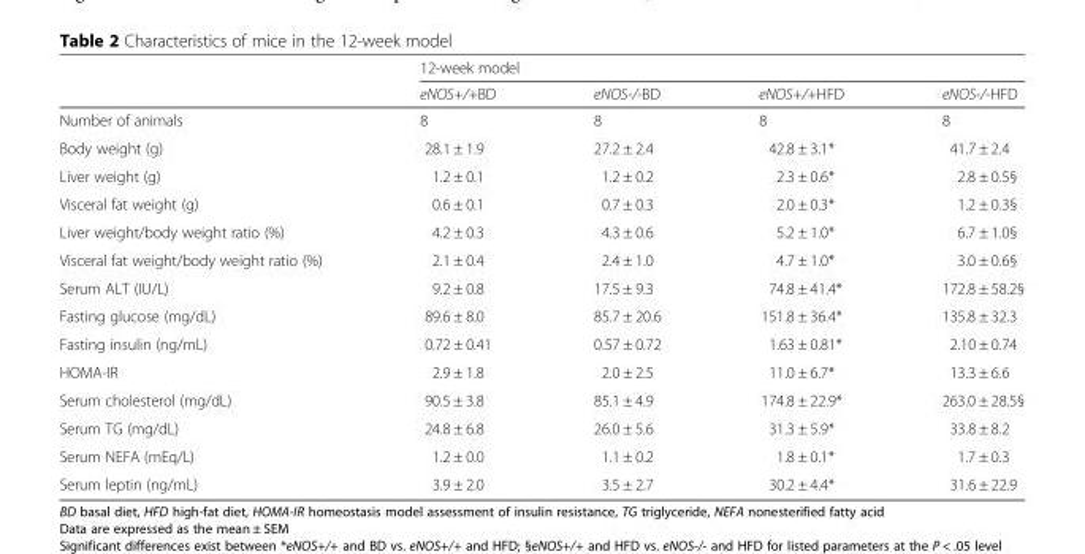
<table><thead><tr><td rowspan="2"></td><td colspan="4">12-week model</td></tr><tr><td>eNOS+/+BD</td><td>eNOS-/-BD</td><td>eNOS+/+HFD</td><td>eNOS-/-HFD</td></tr></thead><tbody><tr><td>Number of animals</td><td>8</td><td>8</td><td>8</td><td>8</td></tr><tr><td>Body weight (g)</td><td>28.1 ± 1.9</td><td>27.2 ± 2.4</td><td>42.8 ± 3.1*</td><td>41.7 ± 2.4</td></tr><tr><td>Liver weight (g)</td><td>1.2 ± 0.1</td><td>1.2 ± 0.2</td><td>2.3 ± 0.6*</td><td>2.8 ± 0.5§</td></tr><tr><td>Visceral fat weight (g)</td><td>0.6 ± 0.1</td><td>0.7 ± 0.3</td><td>2.0 ± 0.3*</td><td>1.2 ± 0.3§</td></tr><tr><td>Liver weight/body weight ratio (%)</td><td>4.2 ± 0.3</td><td>4.3 ± 0.6</td><td>5.2 ± 1.0*</td><td>6.7 ± 1.0§</td></tr><tr><td>Visceral fat weight/body weight ratio (%)</td><td>2.1 ± 0.4</td><td>2.4 ± 1.0</td><td>4.7 ± 1.0*</td><td>3.0 ± 0.6§</td></tr><tr><td>Serum ALT (IU/L)</td><td>9.2 ± 0.8</td><td>17.5 ± 9.3</td><td>74.8 ± 41.4*</td><td>172.8 ± 58.2§</td></tr><tr><td>Fasting glucose (mg/dL)</td><td>89.6 ± 8.0</td><td>85.7 ± 20.6</td><td>151.8 ± 36.4*</td><td>135.8 ± 32.3</td></tr><tr><td>Fasting insulin (ng/mL)</td><td>0.72 ± 0.41</td><td>0.57 ± 0.72</td><td>1.63 ± 0.81*</td><td>2.10 ± 0.74</td></tr><tr><td>HOMA-IR</td><td>2.9 ± 1.8</td><td>2.0 ± 2.5</td><td>11.0 ± 6.7*</td><td>13.3 ± 6.6</td></tr><tr><td>Serum cholesterol (mg/dL)</td><td>90.5 ± 3.8</td><td>85.1 ± 4.9</td><td>174.8 ± 22.9*</td><td>263.0 ± 28.5§</td></tr><tr><td>Serum TG (mg/dL)</td><td>24.8 ± 6.8</td><td>26.0 ± 5.6</td><td>31.3 ± 5.9*</td><td>33.8 ± 8.2</td></tr><tr><td>Serum NEFA (mEq/L)</td><td>1.2 ± 0.0</td><td>1.1 ± 0.2</td><td>1.8 ± 0.1*</td><td>1.7 ± 0.3</td></tr><tr><td>Serum leptin (ng/mL)</td><td>3.9 ± 2.0</td><td>3.5 ± 2.7</td><td>30.2 ± 4.4*</td><td>31.6 ± 22.9</td></tr></tbody></table>